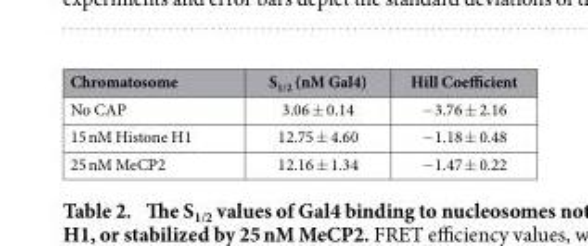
<table><thead><tr><td>Chromatosome</td><td>S<sub>1/2</sub> (nM Gal4)</td><td>Hill Coefficient</td></tr></thead><tbody><tr><td>No CAP</td><td>3.06 ± 0.14</td><td>− 3.76 ± 2.16</td></tr><tr><td>15 nM Histone H1</td><td>12.75 ± 4.60</td><td>− 1.18 ± 0.48</td></tr><tr><td>25 nM MeCP2</td><td>12.16 ± 1.34</td><td>− 1.47 ± 0.22</td></tr></tbody></table>